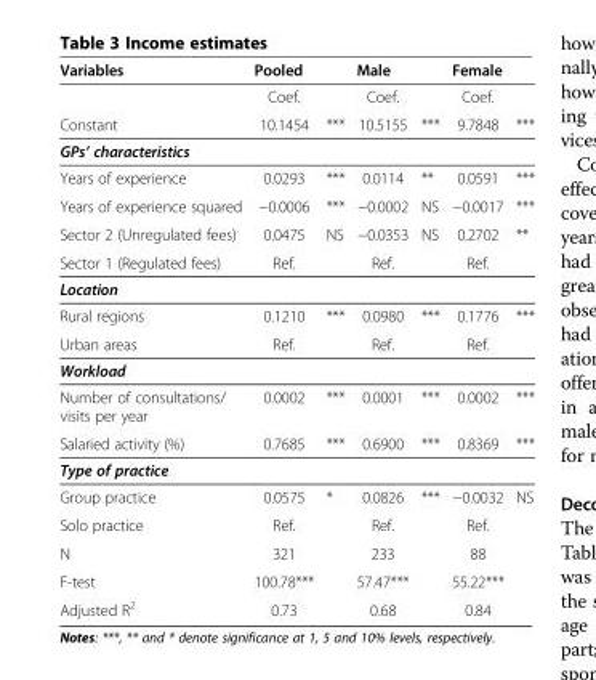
<table><thead><tr><td>Variables</td><td>Pooled</td><td></td><td>Male</td><td></td><td>Female</td><td></td></tr></thead><tbody><tr><td></td><td>Coef.</td><td></td><td>Coef.</td><td></td><td>Coef.</td><td></td></tr><tr><td>Constant</td><td>10.1454</td><td>***</td><td>10.5155</td><td>***</td><td>9.7848</td><td>***</td></tr><tr><td colspan="7">GPs’ characteristics</td></tr><tr><td>Years of experience</td><td>0.0293</td><td>***</td><td>0.0114</td><td>**</td><td>0.0591</td><td>***</td></tr><tr><td>Years of experience squared</td><td>−0.0006</td><td>***</td><td>−0.0002</td><td>NS</td><td>−0.0017</td><td>***</td></tr><tr><td>Sector 2 (Unregulated fees)</td><td>0.0475</td><td>NS</td><td>−0.0353</td><td>NS</td><td>0.2702</td><td>**</td></tr><tr><td>Sector 1 (Regulated fees)</td><td>Ref.</td><td></td><td>Ref.</td><td></td><td>Ref.</td><td></td></tr><tr><td colspan="7">Location</td></tr><tr><td>Rural regions</td><td>0.1210</td><td>***</td><td>0.0980</td><td>***</td><td>0.1776</td><td>***</td></tr><tr><td>Urban areas</td><td>Ref.</td><td></td><td>Ref.</td><td></td><td>Ref.</td><td></td></tr><tr><td colspan="7">Workload</td></tr><tr><td>Number of consultations/ visits per year</td><td>0.0002</td><td>***</td><td>0.0001</td><td>***</td><td>0.0002</td><td>***</td></tr><tr><td>Salaried activity (%)</td><td>0.7685</td><td>***</td><td>0.6900</td><td>***</td><td>0.8369</td><td>***</td></tr><tr><td colspan="7">Type of practice</td></tr><tr><td>Group practice</td><td>0.0575</td><td>*</td><td>0.0826</td><td>***</td><td>−0.0032</td><td>NS</td></tr><tr><td>Solo practice</td><td>Ref.</td><td></td><td>Ref.</td><td></td><td>Ref.</td><td></td></tr><tr><td>N</td><td>321</td><td></td><td>233</td><td></td><td>88</td><td></td></tr><tr><td>F-test</td><td>100.78***</td><td></td><td>57.47***</td><td></td><td>55.22***</td><td></td></tr><tr><td>Adjusted R<sup>2</sup></td><td>0.73</td><td></td><td>0.68</td><td></td><td>0.84</td><td></td></tr></tbody></table>